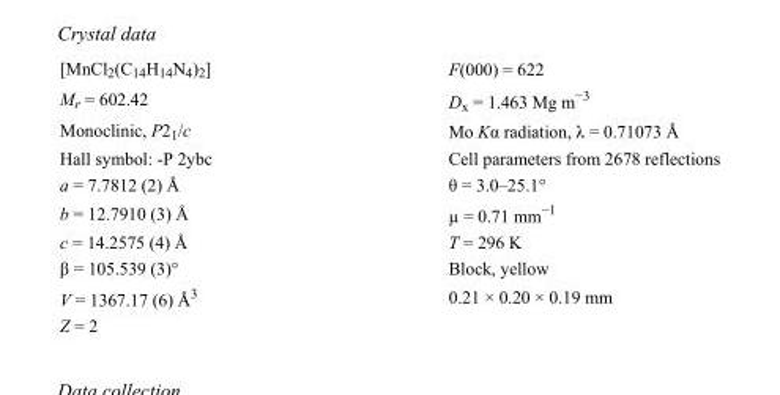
<table><tbody><tr><td>[MnCl<sub>2</sub>(C<sub>14</sub>H<sub>14</sub>N<sub>4</sub>)<sub>2</sub>]</td><td>F(000) = 622</td></tr><tr><td>M<sub>r</sub> = 602.42</td><td>D<sub>x</sub> = 1.463 Mg m<sup>−3</sup></td></tr><tr><td>Monoclinic, P2<sub>1</sub>/c</td><td>Mo Kα radiation, λ = 0.71073 Å</td></tr><tr><td>Hall symbol: -P 2ybc</td><td>Cell parameters from 2678 reflections</td></tr><tr><td>a = 7.7812 (2) Å</td><td>θ = 3.0–25.1°</td></tr><tr><td>b = 12.7910 (3) Å</td><td>µ = 0.71 mm<sup>−1</sup></td></tr><tr><td>c = 14.2575 (4) Å</td><td>T = 296 K</td></tr><tr><td>β = 105.539 (3)°</td><td>Block, yellow</td></tr><tr><td>V = 1367.17 (6) Å<sup>3</sup></td><td>0.21 × 0.20 × 0.19 mm</td></tr><tr><td>Z = 2</td><td></td></tr></tbody></table>